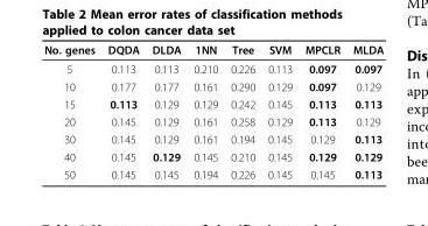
<table><thead><tr><td>No. genes</td><td>DQDA</td><td>DLDA</td><td>1NN</td><td>Tree</td><td>SVM</td><td>MPCLR</td><td>MLDA</td></tr></thead><tbody><tr><td>5</td><td>0.113</td><td>0.113</td><td>0.210</td><td>0.226</td><td>0.113</td><td>0.097</td><td>0.097</td></tr><tr><td>10</td><td>0.177</td><td>0.177</td><td>0.161</td><td>0.290</td><td>0.129</td><td>0.097</td><td>0.129</td></tr><tr><td>15</td><td>0.113</td><td>0.129</td><td>0.129</td><td>0.242</td><td>0.145</td><td>0.113</td><td>0.113</td></tr><tr><td>20</td><td>0.145</td><td>0.129</td><td>0.161</td><td>0.258</td><td>0.129</td><td>0.113</td><td>0.129</td></tr><tr><td>30</td><td>0.145</td><td>0.129</td><td>0.161</td><td>0.194</td><td>0.145</td><td>0.129</td><td>0.113</td></tr><tr><td>40</td><td>0.145</td><td>0.129</td><td>0.145</td><td>0.210</td><td>0.145</td><td>0.129</td><td>0.129</td></tr><tr><td>50</td><td>0.145</td><td>0.145</td><td>0.194</td><td>0.226</td><td>0.145</td><td>0.145</td><td>0.113</td></tr></tbody></table>